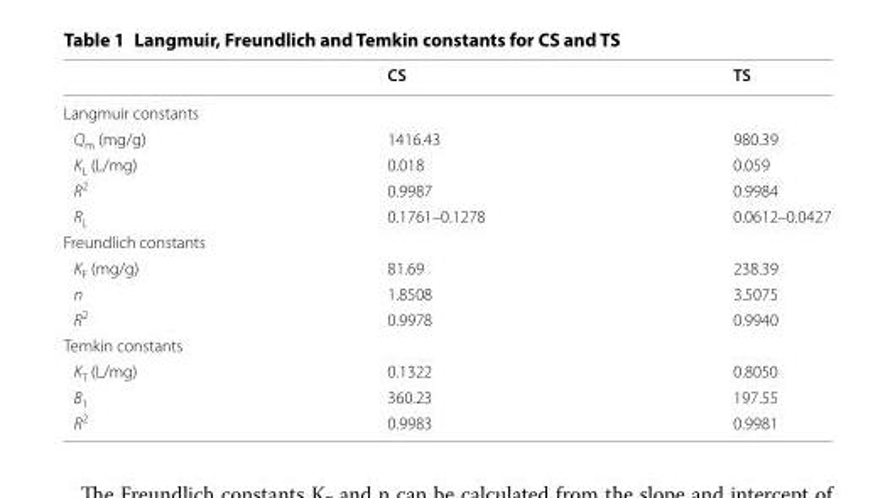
<table><thead><tr><td></td><td>CS</td><td>TS</td></tr></thead><tbody><tr><td colspan="3">Langmuir constants</td></tr><tr><td>Q<sub>m</sub> (mg/g)</td><td>1416.43</td><td>980.39</td></tr><tr><td>K<sub>L</sub> (L/mg)</td><td>0.018</td><td>0.059</td></tr><tr><td>R<sup>2</sup></td><td>0.9987</td><td>0.9984</td></tr><tr><td>R<sub>L</sub></td><td>0.1761–0.1278</td><td>0.0612–0.0427</td></tr><tr><td colspan="3">Freundlich constants</td></tr><tr><td>K<sub>F</sub> (mg/g)</td><td>81.69</td><td>238.39</td></tr><tr><td>n</td><td>1.8508</td><td>3.5075</td></tr><tr><td>R<sup>2</sup></td><td>0.9978</td><td>0.9940</td></tr><tr><td colspan="3">Temkin constants</td></tr><tr><td>K<sub>T</sub> (L/mg)</td><td>0.1322</td><td>0.8050</td></tr><tr><td>B<sub>1</sub></td><td>360.23</td><td>197.55</td></tr><tr><td>R<sup>2</sup></td><td>0.9983</td><td>0.9981</td></tr></tbody></table>